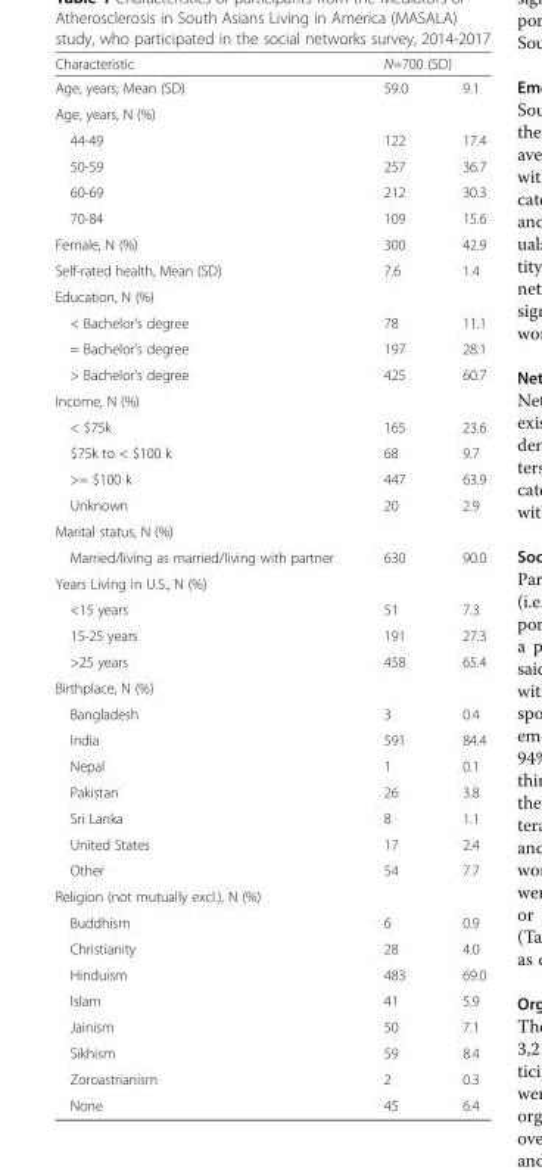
<table><thead><tr><td rowspan="2">Characteristic Age, years; Mean (SD)</td><td colspan="2">N=700 (SD)</td></tr><tr><td>59.0</td><td>9.1</td></tr></thead><tbody><tr><td colspan="3">Age, years, N (%)</td></tr><tr><td>44-49</td><td>122</td><td>17.4</td></tr><tr><td>50-59</td><td>257</td><td>36.7</td></tr><tr><td>60-69</td><td>212</td><td>30.3</td></tr><tr><td>70-84</td><td>109</td><td>15.6</td></tr><tr><td>Female, N (%)</td><td>300</td><td>42.9</td></tr><tr><td>Self-rated health, Mean (SD)</td><td>7.6</td><td>1.4</td></tr><tr><td colspan="3">Education, N (%)</td></tr><tr><td>&lt; Bachelor&#x27;s degree</td><td>78</td><td>11.1</td></tr><tr><td>= Bachelor&#x27;s degree</td><td>197</td><td>28.1</td></tr><tr><td>&gt; Bachelor&#x27;s degree</td><td>425</td><td>60.7</td></tr><tr><td colspan="3">Income, N (%)</td></tr><tr><td>&lt; $75k</td><td>165</td><td>23.6</td></tr><tr><td>$75k to &lt; $100 k</td><td>68</td><td>9.7</td></tr><tr><td>&gt;= $100 k</td><td>447</td><td>63.9</td></tr><tr><td>Unknown</td><td>20</td><td>2.9</td></tr><tr><td colspan="3">Marital status, N (%)</td></tr><tr><td>Married/living as married/living with partner</td><td>630</td><td>90.0</td></tr><tr><td colspan="3">Years Living in U.S., N (%)</td></tr><tr><td>&lt;15 years</td><td>51</td><td>7.3</td></tr><tr><td>15-25 years</td><td>191</td><td>27.3</td></tr><tr><td>&gt;25 years</td><td>458</td><td>65.4</td></tr><tr><td colspan="3">Birthplace, N (%)</td></tr><tr><td>Bangladesh</td><td>3</td><td>0.4</td></tr><tr><td>India</td><td>591</td><td>84.4</td></tr><tr><td>Nepal</td><td>1</td><td>0.1</td></tr><tr><td>Pakistan</td><td>26</td><td>3.8</td></tr><tr><td>Sri Lanka</td><td>8</td><td>1.1</td></tr><tr><td>United States</td><td>17</td><td>2.4</td></tr><tr><td>Other</td><td>54</td><td>7.7</td></tr><tr><td colspan="3">Religion (not mutually excl.), N (%)</td></tr><tr><td>Buddhism</td><td>6</td><td>0.9</td></tr><tr><td>Christianity</td><td>28</td><td>4.0</td></tr><tr><td>Hinduism</td><td>483</td><td>69.0</td></tr><tr><td>Islam</td><td>41</td><td>5.9</td></tr><tr><td>Jainism</td><td>50</td><td>7.1</td></tr><tr><td>Sikhism</td><td>59</td><td>8.4</td></tr><tr><td>Zoroastrianism</td><td>2</td><td>0.3</td></tr><tr><td>None</td><td>45</td><td>6.4</td></tr></tbody></table>